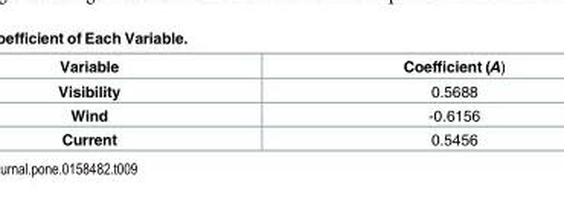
<table><thead><tr><td>Variable</td><td>Coefficient (A)</td></tr></thead><tbody><tr><td>Visibility</td><td>0.5688</td></tr><tr><td>Wind</td><td>-0.6156</td></tr><tr><td>Current</td><td>0.5456</td></tr></tbody></table>